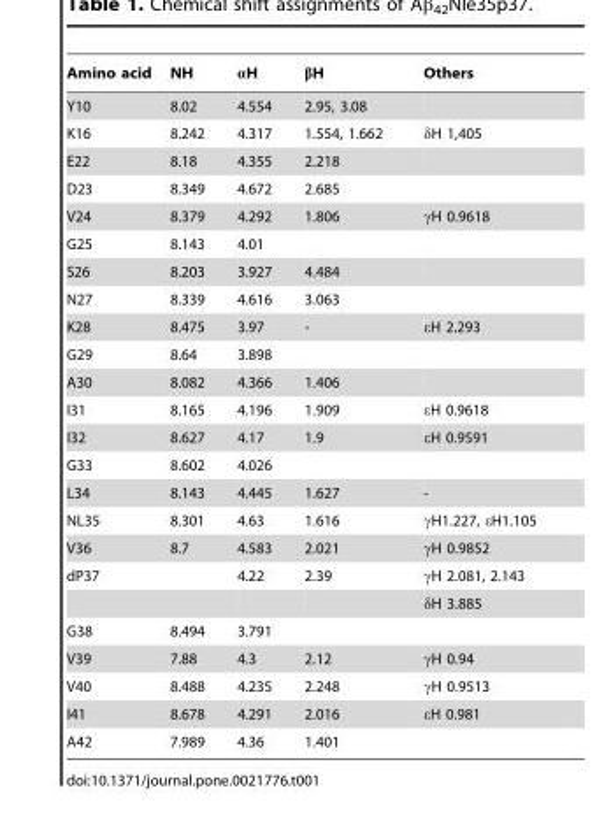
<table><thead><tr><td>Amino acid</td><td>NH</td><td>αH</td><td>βH</td><td>Others</td></tr></thead><tbody><tr><td>Y10</td><td>8.02</td><td>4.554</td><td>2.95, 3.08</td><td></td></tr><tr><td>K16</td><td>8.242</td><td>4.317</td><td>1.554, 1.662</td><td>δH 1,405</td></tr><tr><td>E22</td><td>8.18</td><td>4.355</td><td>2.218</td><td></td></tr><tr><td>D23</td><td>8.349</td><td>4.672</td><td>2.685</td><td></td></tr><tr><td>V24</td><td>8.379</td><td>4.292</td><td>1.806</td><td>γH 0.9618</td></tr><tr><td>G25</td><td>8.143</td><td>4.01</td><td></td><td></td></tr><tr><td>S26</td><td>8.203</td><td>3.927</td><td>4.484</td><td></td></tr><tr><td>N27</td><td>8.339</td><td>4.616</td><td>3.063</td><td></td></tr><tr><td>K28</td><td>8.475</td><td>3.97</td><td>-</td><td>εH 2.293</td></tr><tr><td>G29</td><td>8.64</td><td>3.898</td><td></td><td></td></tr><tr><td>A30</td><td>8.082</td><td>4.366</td><td>1.406</td><td></td></tr><tr><td>I31</td><td>8.165</td><td>4.196</td><td>1.909</td><td>εH 0.9618</td></tr><tr><td>I32</td><td>8.627</td><td>4.17</td><td>1.9</td><td>εH 0.9591</td></tr><tr><td>G33</td><td>8.602</td><td>4.026</td><td></td><td></td></tr><tr><td>L34</td><td>8.143</td><td>4.445</td><td>1.627</td><td>-</td></tr><tr><td>NL35</td><td>8.301</td><td>4.63</td><td>1.616</td><td>γH1.227, εH1.105</td></tr><tr><td>V36</td><td>8.7</td><td>4.583</td><td>2.021</td><td>γH 0.9852</td></tr><tr><td rowspan="2">dP37</td><td></td><td>4.22</td><td>2.39</td><td>γH 2.081, 2.143</td></tr><tr><td></td><td></td><td></td><td>δH 3.885</td></tr><tr><td>G38</td><td>8.494</td><td>3.791</td><td></td><td></td></tr><tr><td>V39</td><td>7.88</td><td>4.3</td><td>2.12</td><td>γH 0.94</td></tr><tr><td>V40</td><td>8.488</td><td>4.235</td><td>2.248</td><td>γH 0.9513</td></tr><tr><td>I41</td><td>8.678</td><td>4.291</td><td>2.016</td><td>εH 0.981</td></tr><tr><td>A42</td><td>7.989</td><td>4.36</td><td>1.401</td><td></td></tr></tbody></table>